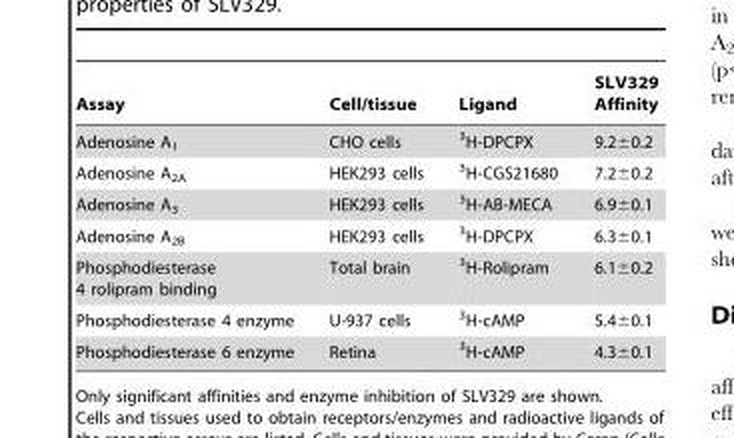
<table><thead><tr><td>Assay</td><td>Cell/tissue</td><td>Ligand</td><td>SLV329 Affinity</td></tr></thead><tbody><tr><td>Adenosine A<sub>1</sub></td><td>CHO cells</td><td><sup>3</sup>H-DPCPX</td><td>9.2±0.2</td></tr><tr><td>Adenosine A<sub>2A</sub></td><td>HEK293 cells</td><td><sup>3</sup>H-CGS21680</td><td>7.2±0.2</td></tr><tr><td>Adenosine A<sub>3</sub></td><td>HEK293 cells</td><td><sup>3</sup>H-AB-MECA</td><td>6.9±0.1</td></tr><tr><td>Adenosine A<sub>2B</sub></td><td>HEK293 cells</td><td><sup>3</sup>H-DPCPX</td><td>6.3±0.1</td></tr><tr><td>Phosphodiesterase 4 rolipram binding</td><td>Total brain</td><td><sup>3</sup>H-Rolipram</td><td>6.1±0.2</td></tr><tr><td>Phosphodiesterase 4 enzyme</td><td>U-937 cells</td><td><sup>3</sup>H-cAMP</td><td>5.4±0.1</td></tr><tr><td>Phosphodiesterase 6 enzyme</td><td>Retina</td><td><sup>3</sup>H-cAMP</td><td>4.3±0.1</td></tr></tbody></table>